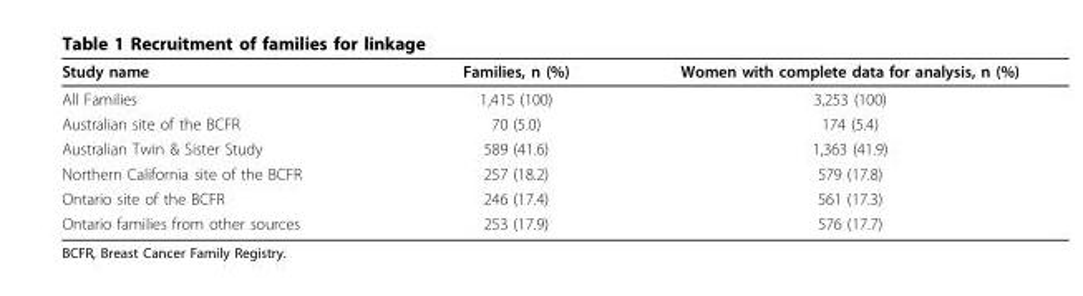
<table><thead><tr><td>Study name</td><td>Families, n (%)</td><td>Women with complete data for analysis, n (%)</td></tr></thead><tbody><tr><td>All Families</td><td>1,415 (100)</td><td>3,253 (100)</td></tr><tr><td>Australian site of the BCFR</td><td>70 (5.0)</td><td>174 (5.4)</td></tr><tr><td>Australian Twin &amp; Sister Study</td><td>589 (41.6)</td><td>1,363 (41.9)</td></tr><tr><td>Northern California site of the BCFR</td><td>257 (18.2)</td><td>579 (17.8)</td></tr><tr><td>Ontario site of the BCFR</td><td>246 (17.4)</td><td>561 (17.3)</td></tr><tr><td>Ontario families from other sources</td><td>253 (17.9)</td><td>576 (17.7)</td></tr></tbody></table>